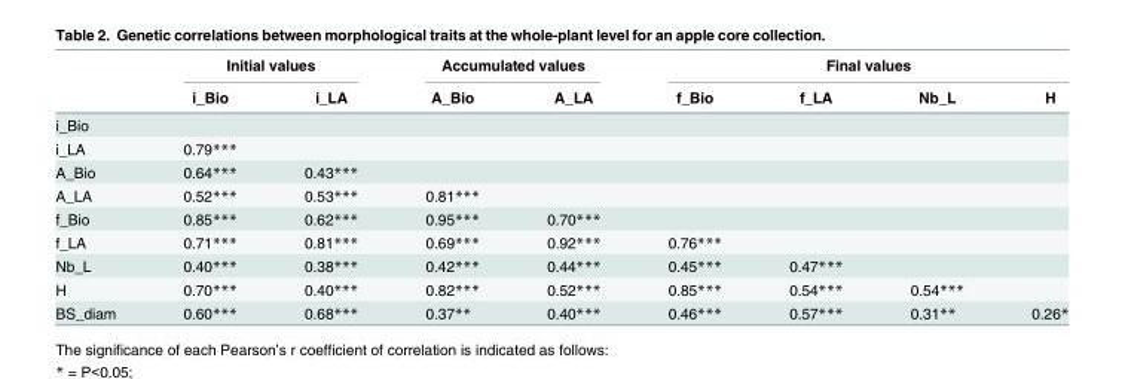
<table><thead><tr><td rowspan="2"></td><td colspan="2">Initial values</td><td colspan="2">Accumulated values</td><td colspan="4">Final values</td></tr><tr><td>i_Bio</td><td>i_LA</td><td>A_Bio</td><td>A_LA</td><td>f_Bio</td><td>f_LA</td><td>Nb_L</td><td>H</td></tr></thead><tbody><tr><td colspan="9">i_Bio</td></tr><tr><td>i_LA</td><td>0.79***</td><td></td><td></td><td></td><td></td><td></td><td></td><td></td></tr><tr><td>A_Bio</td><td>0.64***</td><td>0.43***</td><td></td><td></td><td></td><td></td><td></td><td></td></tr><tr><td>A_LA</td><td>0.52***</td><td>0.53***</td><td>0.81***</td><td></td><td></td><td></td><td></td><td></td></tr><tr><td>f_Bio</td><td>0.85***</td><td>0.62***</td><td>0.95***</td><td>0.70***</td><td></td><td></td><td></td><td></td></tr><tr><td>f_LA</td><td>0.71***</td><td>0.81***</td><td>0.69***</td><td>0.92***</td><td>0.76***</td><td></td><td></td><td></td></tr><tr><td>Nb_L</td><td>0.40***</td><td>0.38***</td><td>0.42***</td><td>0.44***</td><td>0.45***</td><td>0.47***</td><td></td><td></td></tr><tr><td>H</td><td>0.70***</td><td>0.40***</td><td>0.82***</td><td>0.52***</td><td>0.85***</td><td>0.54***</td><td>0.54***</td><td></td></tr><tr><td>BS_diam</td><td>0.60***</td><td>0.68***</td><td>0.37**</td><td>0.40***</td><td>0.46***</td><td>0.57***</td><td>0.31**</td><td>0.26*</td></tr></tbody></table>